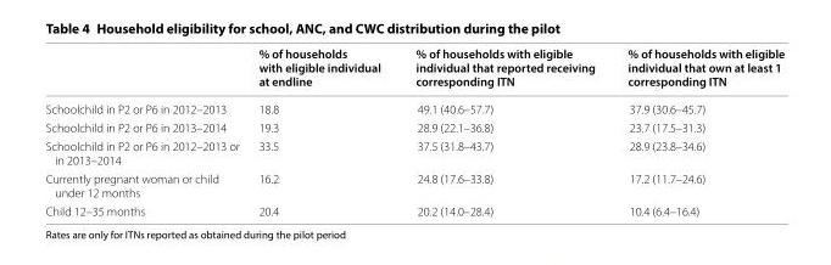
<table><thead><tr><td></td><td>% of households with eligible individual at endline</td><td>% of households with eligible individual that reported receiving corresponding ITN</td><td>% of households with eligible individual that own at least 1 corresponding ITN</td></tr></thead><tbody><tr><td>Schoolchild in P2 or P6 in 2012–2013</td><td>18.8</td><td>49.1 (40.6–57.7)</td><td>37.9 (30.6–45.7)</td></tr><tr><td>Schoolchild in P2 or P6 in 2013–2014</td><td>19.3</td><td>28.9 (22.1–36.8)</td><td>23.7 (17.5–31.3)</td></tr><tr><td>Schoolchild in P2 or P6 in 2012–2013 or in 2013–2014</td><td>33.5</td><td>37.5 (31.8–43.7)</td><td>28.9 (23.8–34.6)</td></tr><tr><td>Currently pregnant woman or child under 12 months</td><td>16.2</td><td>24.8 (17.6–33.8)</td><td>17.2 (11.7–24.6)</td></tr><tr><td>Child 12–35 months</td><td>20.4</td><td>20.2 (14.0–28.4)</td><td>10.4 (6.4–16.4)</td></tr></tbody></table>